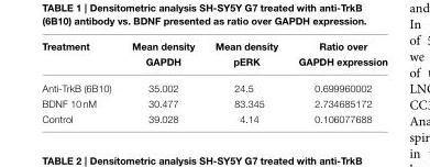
<table><thead><tr><td rowspan="2">Treatment</td><td rowspan="2">Mean density GAPDH</td><td rowspan="2">Mean density pERK</td><td rowspan="2">Ratio over GAPDH expression</td></tr><tr></tr></thead><tbody><tr><td>Anti-TrkB (6B10)</td><td>35.002</td><td>24.5</td><td>0.699960002</td></tr><tr><td>BDNF 10 nM</td><td>30.477</td><td>83.345</td><td>2.734685172</td></tr><tr><td>Control</td><td>39.028</td><td>4.14</td><td>0.106077688</td></tr></tbody></table>